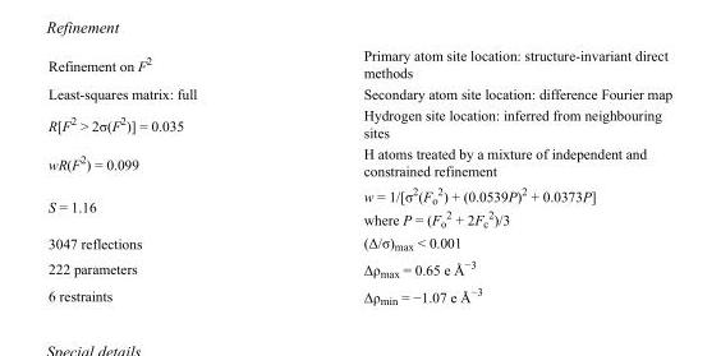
<table><tbody><tr><td>Refinement on F<sup>2</sup></td><td>Primary atom site location: structure-invariant direct methods</td></tr><tr><td>Least-squares matrix: full</td><td>Secondary atom site location: difference Fourier map</td></tr><tr><td>R[F<sup>2</sup> &gt; 2σ(F<sup>2</sup>)] = 0.035</td><td>Hydrogen site location: inferred from neighbouring sites</td></tr><tr><td>wR(F<sup>2</sup>) = 0.099</td><td>H atoms treated by a mixture of independent and constrained refinement</td></tr><tr><td>S = 1.16</td><td>w = 1/[σ<sup>2</sup>(F<sub>o</sub> <sup>2</sup>) + (0.0539P)<sup>2</sup> + 0.0373P] where P = (F<sub>o</sub> <sup>2</sup> + 2F<sub>c</sub> <sup>2</sup>)/3</td></tr><tr><td>3047 reflections</td><td>(Δ/σ)<sub>max</sub> &lt; 0.001</td></tr><tr><td>222 parameters</td><td>Δρ<sub>max</sub> = 0.65 e Å<sup>−3</sup></td></tr><tr><td>6 restraints</td><td>Δρmin = −1.07 e Å−3</td></tr></tbody></table>